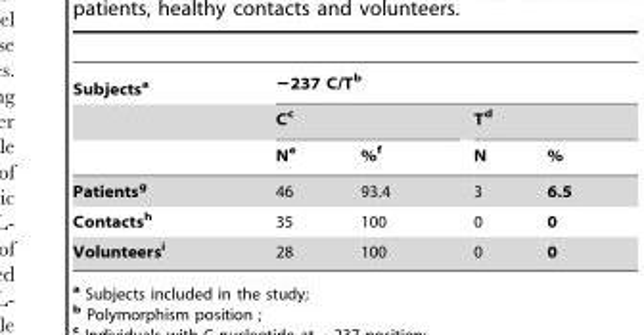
<table><thead><tr><td rowspan="3">Subjects<sup>a</sup></td><td colspan="4">−237 C/T<sup>b</sup></td></tr><tr><td colspan="2">C<sup>c</sup></td><td colspan="2">T<sup>d</sup></td></tr><tr><td>N<sup>e</sup></td><td>%<sup>f</sup></td><td>N</td><td>%</td></tr></thead><tbody><tr><td>Patientsg</td><td>46</td><td>93.4</td><td>3</td><td>6.5</td></tr><tr><td>Contactsh</td><td>35</td><td>100</td><td>0</td><td>0</td></tr><tr><td>Volunteersi</td><td>28</td><td>100</td><td>0</td><td>0</td></tr></tbody></table>